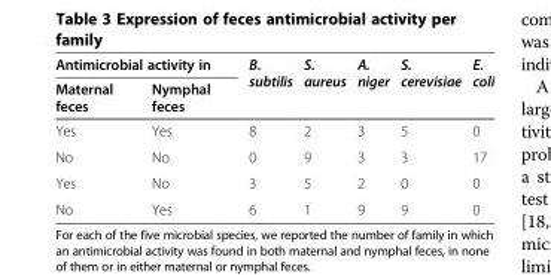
<table><thead><tr><td colspan="2">Antimicrobial activity in</td><td rowspan="2">B. subtilis</td><td rowspan="2">S. aureus</td><td rowspan="2">A. niger</td><td rowspan="2">S. cerevisiae</td><td rowspan="2">E. coli</td></tr><tr><td>Maternal feces</td><td>Nymphal feces</td></tr></thead><tbody><tr><td>Yes</td><td>Yes</td><td>8</td><td>2</td><td>3</td><td>5</td><td>0</td></tr><tr><td>No</td><td>No</td><td>0</td><td>9</td><td>3</td><td>3</td><td>17</td></tr><tr><td>Yes</td><td>No</td><td>3</td><td>5</td><td>2</td><td>0</td><td>0</td></tr><tr><td>No</td><td>Yes</td><td>6</td><td>1</td><td>9</td><td>9</td><td>0</td></tr></tbody></table>